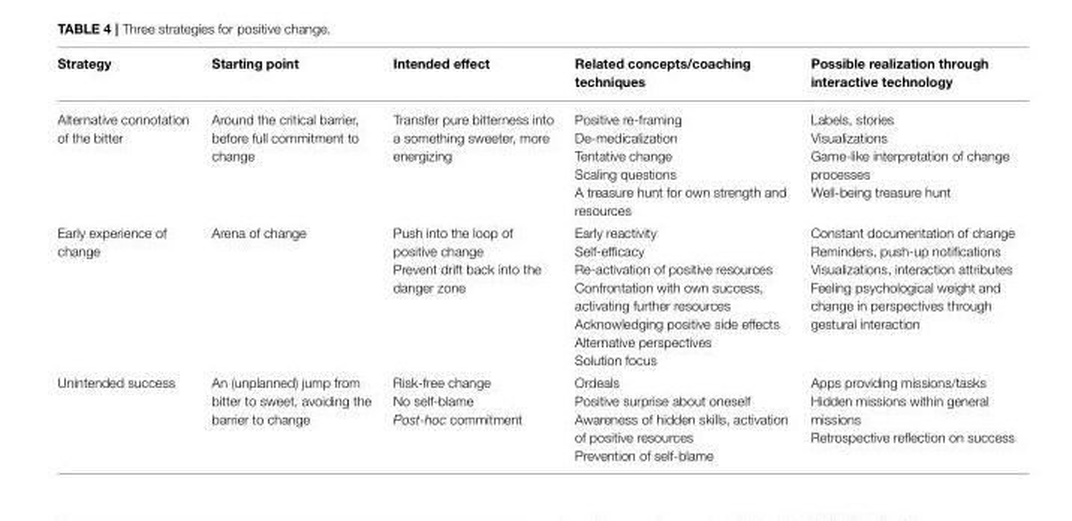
<table><thead><tr><td>Strategy</td><td>Starting point</td><td>Intended effect</td><td>Related concepts/coaching techniques</td><td>Possible realization through interactive technology</td></tr></thead><tbody><tr><td>Alternative connotation of the bitter</td><td>Around the critical barrier, before full commitment to change</td><td>Transfer pure bitterness into a something sweeter, more energizing</td><td>Positive re-framing De-medicalization Tentative change Scaling questions A treasure hunt for own strength and resources</td><td>Labels, stories Visualizations Game-like interpretation of change processes Well-being treasure hunt</td></tr><tr><td>Early experience of change</td><td>Arena of change</td><td>Push into the loop of positive change Prevent drift back into the danger zone</td><td>Early reactivity Self-efficacy Re-activation of positive resources Confrontation with own success, activating further resources Acknowledging positive side effects Alternative perspectives Solution focus</td><td>Constant documentation of change Reminders, push-up notifications Visualizations, interaction attributes Feeling psychological weight and change in perspectives through gestural interaction</td></tr><tr><td>Unintended success</td><td>An (unplanned) jump from bitter to sweet, avoiding the barrier to change</td><td>Risk-free change No self-blame Post-hoc commitment</td><td>Ordeals Positive surprise about oneself Awareness of hidden skills, activation of positive resources Prevention of self-blame</td><td>Apps providing missions/tasks Hidden missions within general missions Retrospective reflection on success</td></tr></tbody></table>